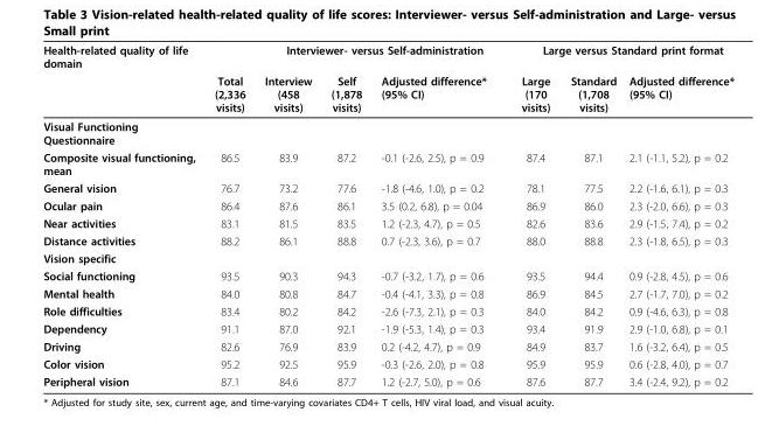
<table><thead><tr><td rowspan="2">Health-related quality of life domain</td><td rowspan="2">Total (2,336 visits)</td><td colspan="3">Interviewer- versus Self-administration</td><td colspan="3">Large versus Standard print format</td></tr><tr><td>Interview (458 visits)</td><td>Self (1,878 visits)</td><td>Adjusted difference* (95% CI)</td><td>Large (170 visits)</td><td>Standard (1,708 visits)</td><td>Adjusted difference* (95% CI)</td></tr></thead><tbody><tr><td colspan="8">Visual Functioning Questionnaire</td></tr><tr><td>Composite visual functioning, mean</td><td>86.5</td><td>83.9</td><td>87.2</td><td>-0.1 (-2.6, 2.5), p = 0.9</td><td>87.4</td><td>87.1</td><td>2.1 (-1.1, 5.2), p = 0.2</td></tr><tr><td>General vision</td><td>76.7</td><td>73.2</td><td>77.6</td><td>-1.8 (-4.6, 1.0), p = 0.2</td><td>78.1</td><td>77.5</td><td>2.2 (-1.6, 6.1), p = 0.3</td></tr><tr><td>Ocular pain</td><td>86.4</td><td>87.6</td><td>86.1</td><td>3.5 (0.2, 6.8), p = 0.04</td><td>86.9</td><td>86.0</td><td>2.3 (-2.0, 6.6), p = 0.3</td></tr><tr><td>Near activities</td><td>83.1</td><td>81.5</td><td>83.5</td><td>1.2 (-2.3, 4.7), p = 0.5</td><td>82.6</td><td>83.6</td><td>2.9 (-1.5, 7.4), p = 0.2</td></tr><tr><td>Distance activities</td><td>88.2</td><td>86.1</td><td>88.8</td><td>0.7 (-2.3, 3.6), p = 0.7</td><td>88.0</td><td>88.8</td><td>2.3 (-1.8, 6.5), p = 0.3</td></tr><tr><td colspan="8">Vision specific</td></tr><tr><td>Social functioning</td><td>93.5</td><td>90.3</td><td>94.3</td><td>-0.7 (-3.2, 1.7), p = 0.6</td><td>93.5</td><td>94.4</td><td>0.9 (-2.8, 4.5), p = 0.6</td></tr><tr><td>Mental health</td><td>84.0</td><td>80.8</td><td>84.7</td><td>-0.4 (-4.1, 3.3), p = 0.8</td><td>86.9</td><td>84.5</td><td>2.7 (-1.7, 7.0), p = 0.2</td></tr><tr><td>Role difficulties</td><td>83.4</td><td>80.2</td><td>84.2</td><td>-2.6 (-7.3, 2.1), p = 0.3</td><td>84.0</td><td>84.2</td><td>0.9 (-4.6, 6.3), p = 0.8</td></tr><tr><td>Dependency</td><td>91.1</td><td>87.0</td><td>92.1</td><td>-1.9 (-5.3, 1.4), p = 0.3</td><td>93.4</td><td>91.9</td><td>2.9 (-1.0, 6.8), p = 0.1</td></tr><tr><td>Driving</td><td>82.6</td><td>76.9</td><td>83.9</td><td>0.2 (-4.2, 4.7), p = 0.9</td><td>84.9</td><td>83.7</td><td>1.6 (-3.2, 6.4), p = 0.5</td></tr><tr><td>Color vision</td><td>95.2</td><td>92.5</td><td>95.9</td><td>-0.3 (-2.6, 2.0), p = 0.8</td><td>95.9</td><td>95.9</td><td>0.6 (-2.8, 4.0), p = 0.7</td></tr><tr><td>Peripheral vision</td><td>87.1</td><td>84.6</td><td>87.7</td><td>1.2 (-2.7, 5.0), p = 0.6</td><td>87.6</td><td>87.7</td><td>3.4 (-2.4, 9.2), p = 0.2</td></tr></tbody></table>